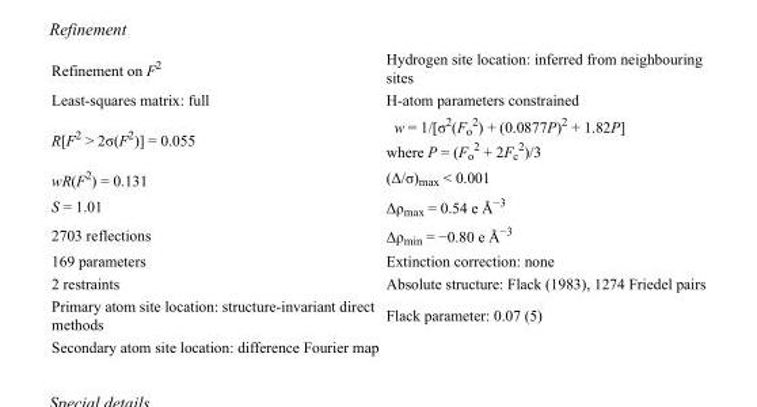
<table><tbody><tr><td>Refinement on F<sup>2</sup></td><td>Hydrogen site location: inferred from neighbouring sites</td></tr><tr><td>Least-squares matrix: full</td><td>H-atom parameters constrained</td></tr><tr><td>R[F<sup>2</sup> &gt; 2σ(F<sup>2</sup>)] = 0.055</td><td>w = 1/[σ<sup>2</sup>(F<sub>o</sub> <sup>2</sup>) + (0.0877P)<sup>2</sup> + 1.82P] where P = (F<sub>o</sub> <sup>2</sup> + 2F<sub>c</sub> <sup>2</sup>)/3</td></tr><tr><td>wR(F<sup>2</sup>) = 0.131</td><td>(Δ/σ)<sub>max</sub> &lt; 0.001</td></tr><tr><td>S = 1.01</td><td>Δρ<sub>max</sub> = 0.54 e Å<sup>−3</sup></td></tr><tr><td>2703 reflections</td><td>Δρ<sub>min</sub> = −0.80 e Å<sup>−3</sup></td></tr><tr><td>169 parameters</td><td>Extinction correction: none</td></tr><tr><td>2 restraints</td><td>Absolute structure: Flack (1983), 1274 Friedel pairs</td></tr><tr><td>Primary atom site location: structure-invariant direct methods</td><td>Flack parameter: 0.07 (5)</td></tr><tr><td>Secondary atom site location: difference Fourier map</td><td></td></tr></tbody></table>